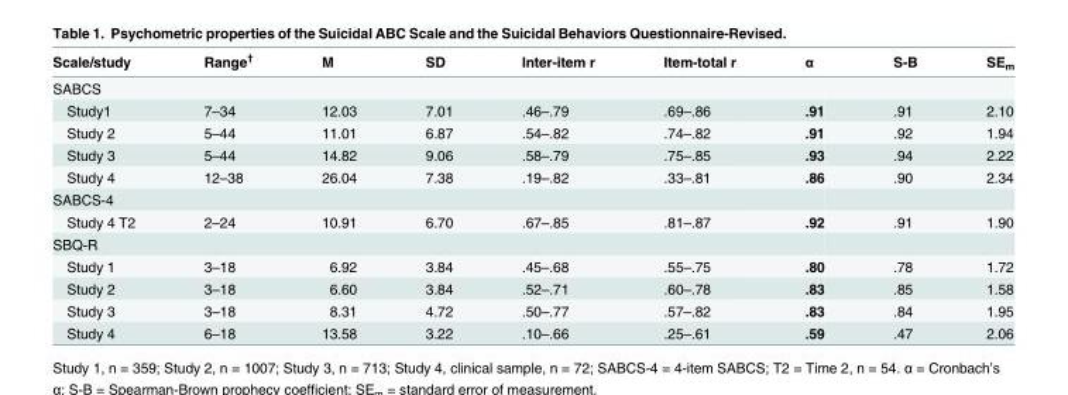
<table><thead><tr><td>Scale/study</td><td>Range<sup>†</sup></td><td>M</td><td>SD</td><td>Inter-item r</td><td>Item-total r</td><td>α</td><td>S-B</td><td>SE<sub>m</sub></td></tr></thead><tbody><tr><td colspan="9">SABCS</td></tr><tr><td>Study1</td><td>7–34</td><td>12.03</td><td>7.01</td><td>.46–.79</td><td>.69–.86</td><td>.91</td><td>.91</td><td>2.10</td></tr><tr><td>Study 2</td><td>5–44</td><td>11.01</td><td>6.87</td><td>.54–.82</td><td>.74–.82</td><td>.91</td><td>.92</td><td>1.94</td></tr><tr><td>Study 3</td><td>5–44</td><td>14.82</td><td>9.06</td><td>.58–.79</td><td>.75–.85</td><td>.93</td><td>.94</td><td>2.22</td></tr><tr><td>Study 4</td><td>12–38</td><td>26.04</td><td>7.38</td><td>.19–.82</td><td>.33–.81</td><td>.86</td><td>.90</td><td>2.34</td></tr><tr><td colspan="9">SABCS-4</td></tr><tr><td>Study 4 T2</td><td>2–24</td><td>10.91</td><td>6.70</td><td>.67–.85</td><td>.81–.87</td><td>.92</td><td>.91</td><td>1.90</td></tr><tr><td colspan="9">SBQ-R</td></tr><tr><td>Study 1</td><td>3–18</td><td>6.92</td><td>3.84</td><td>.45–.68</td><td>.55–.75</td><td>.80</td><td>.78</td><td>1.72</td></tr><tr><td>Study 2</td><td>3–18</td><td>6.60</td><td>3.84</td><td>.52–.71</td><td>.60–.78</td><td>.83</td><td>.85</td><td>1.58</td></tr><tr><td>Study 3</td><td>3–18</td><td>8.31</td><td>4.72</td><td>.50–.77</td><td>.57–.82</td><td>.83</td><td>.84</td><td>1.95</td></tr><tr><td>Study 4</td><td>6–18</td><td>13.58</td><td>3.22</td><td>.10–.66</td><td>.25–.61</td><td>.59</td><td>.47</td><td>2.06</td></tr></tbody></table>